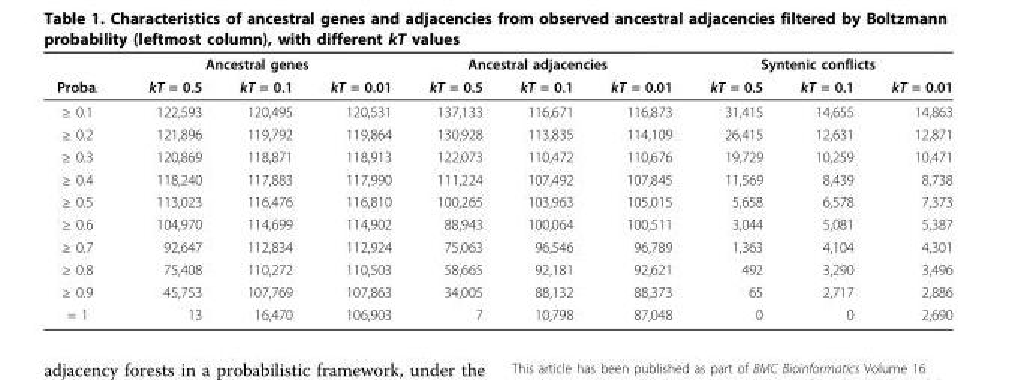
<table><thead><tr><td rowspan="2">Proba.</td><td colspan="3">Ancestral genes</td><td colspan="3">Ancestral adjacencies</td><td colspan="3">Syntenic conflicts</td></tr><tr><td>kT = 0.5</td><td>kT = 0.1</td><td>kT = 0.01</td><td>kT = 0.5</td><td>kT = 0.1</td><td>kT = 0.01</td><td>kT = 0.5</td><td>kT = 0.1</td><td>kT = 0.01</td></tr></thead><tbody><tr><td>≥ 0.1</td><td>122,593</td><td>120,495</td><td>120,531</td><td>137,133</td><td>116,671</td><td>116,873</td><td>31,415</td><td>14,655</td><td>14,863</td></tr><tr><td>≥ 0.2</td><td>121,896</td><td>119,792</td><td>119,864</td><td>130,928</td><td>113,835</td><td>114,109</td><td>26,415</td><td>12,631</td><td>12,871</td></tr><tr><td>≥ 0.3</td><td>120,869</td><td>118,871</td><td>118,913</td><td>122,073</td><td>110,472</td><td>110,676</td><td>19,729</td><td>10,259</td><td>10,471</td></tr><tr><td>≥ 0.4</td><td>118,240</td><td>117,883</td><td>117,990</td><td>111,224</td><td>107,492</td><td>107,845</td><td>11,569</td><td>8,439</td><td>8,738</td></tr><tr><td>≥ 0.5</td><td>113,023</td><td>116,476</td><td>116,810</td><td>100,265</td><td>103,963</td><td>105,015</td><td>5,658</td><td>6,578</td><td>7,373</td></tr><tr><td>≥ 0.6</td><td>104,970</td><td>114,699</td><td>114,902</td><td>88,943</td><td>100,064</td><td>100,511</td><td>3,044</td><td>5,081</td><td>5,387</td></tr><tr><td>≥ 0.7</td><td>92,647</td><td>112,834</td><td>112,924</td><td>75,063</td><td>96,546</td><td>96,789</td><td>1,363</td><td>4,104</td><td>4,301</td></tr><tr><td>≥ 0.8</td><td>75,408</td><td>110,272</td><td>110,503</td><td>58,665</td><td>92,181</td><td>92,621</td><td>492</td><td>3,290</td><td>3,496</td></tr><tr><td>≥ 0.9</td><td>45,753</td><td>107,769</td><td>107,863</td><td>34,005</td><td>88,132</td><td>88,373</td><td>65</td><td>2,717</td><td>2,886</td></tr><tr><td>= 1</td><td>13</td><td>16,470</td><td>106,903</td><td>7</td><td>10,798</td><td>87,048</td><td>0</td><td>0</td><td>2,690</td></tr></tbody></table>